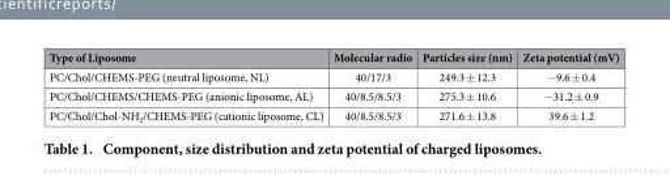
<table><thead><tr><td>Type of Liposome</td><td>Molecular radio</td><td>Particles size (nm)</td><td>Zeta potential (mV)</td></tr></thead><tbody><tr><td>PC/Chol/CHEMS-PEG (neutral liposome, NL)</td><td>40/17/3</td><td>249.3 ± 12.3</td><td>− 9.6 ± 0.4</td></tr><tr><td>PC/Chol/CHEMS/CHEMS-PEG (anionic liposome, AL)</td><td>40/8.5/8.5/3</td><td>275.3 ± 10.6</td><td>− 31.2 ± 0.9</td></tr><tr><td>PC/Chol/Chol-NH<sub>2</sub>/CHEMS-PEG (cationic liposome, CL)</td><td>40/8.5/8.5/3</td><td>271.6 ± 13.8</td><td>39.6 ± 1.2</td></tr></tbody></table>